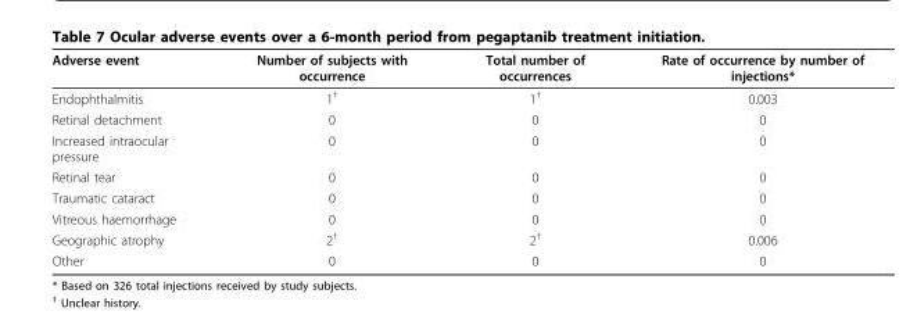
<table><thead><tr><td>Adverse event</td><td>Number of subjects with occurrence</td><td>Total number of occurrences</td><td>Rate of occurrence by number of injections*</td></tr></thead><tbody><tr><td>Endophthalmitis</td><td>1<sup>†</sup></td><td>1<sup>†</sup></td><td>0.003</td></tr><tr><td>Retinal detachment</td><td>0</td><td>0</td><td>0</td></tr><tr><td>Increased intraocular pressure</td><td>0</td><td>0</td><td>0</td></tr><tr><td>Retinal tear</td><td>0</td><td>0</td><td>0</td></tr><tr><td>Traumatic cataract</td><td>0</td><td>0</td><td>0</td></tr><tr><td>Vitreous haemorrhage</td><td>0</td><td>0</td><td>0</td></tr><tr><td>Geographic atrophy</td><td>2<sup>†</sup></td><td>2<sup>†</sup></td><td>0.006</td></tr><tr><td>Other</td><td>0</td><td>0</td><td>0</td></tr></tbody></table>